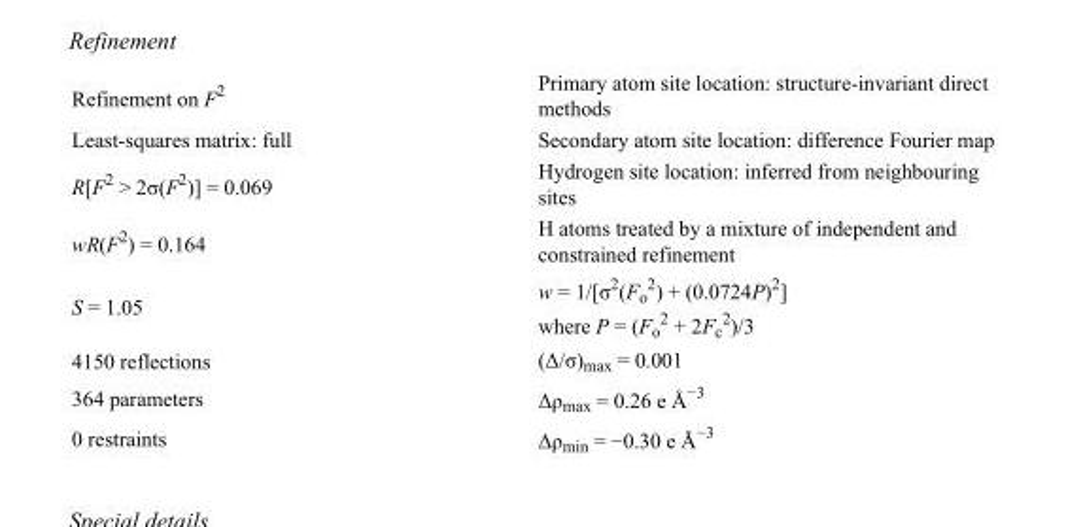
<table><tbody><tr><td>Refinement on F<sup>2</sup></td><td>Primary atom site location: structure-invariant direct methods</td></tr><tr><td>Least-squares matrix: full</td><td>Secondary atom site location: difference Fourier map</td></tr><tr><td>R[F<sup>2</sup> &gt; 2σ(F<sup>2</sup>)] = 0.069</td><td>Hydrogen site location: inferred from neighbouring sites</td></tr><tr><td>wR(F<sup>2</sup>) = 0.164</td><td>H atoms treated by a mixture of independent and constrained refinement</td></tr><tr><td>S = 1.05</td><td>w = 1/[σ<sup>2</sup>(F<sub>o</sub> <sup>2</sup>) + (0.0724P)<sup>2</sup>] where P = (F<sub>o</sub> <sup>2</sup> + 2F<sub>c</sub> <sup>2</sup>)/3</td></tr><tr><td>4150 reflections</td><td>(Δ/σ)<sub>max</sub> = 0.001</td></tr><tr><td>364 parameters</td><td>Δρ<sub>max</sub> = 0.26 e Å<sup>−3</sup></td></tr><tr><td>0 restraints</td><td>Δρmin = −0.30 e Å−3</td></tr></tbody></table>